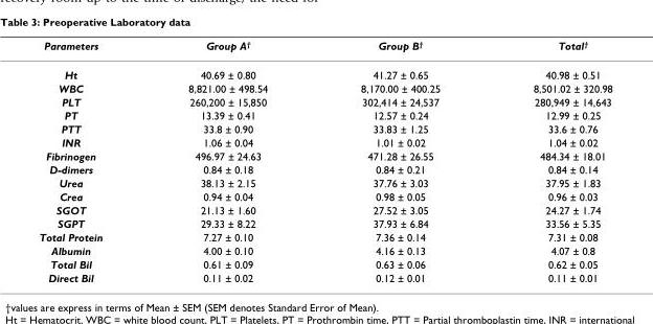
<table><thead><tr><td>Parameters</td><td>Group A<sup>†</sup></td><td>Group B<sup>†</sup></td><td>Total<sup>†</sup></td></tr></thead><tbody><tr><td>Ht</td><td>40.69 ± 0.80</td><td>41.27 ± 0.65</td><td>40.98 ± 0.51</td></tr><tr><td>WBC</td><td>8,821.00 ± 498.54</td><td>8,170.00 ± 400.25</td><td>8,501.02 ± 320.98</td></tr><tr><td>PLT</td><td>260,200 ± 15,850</td><td>302,414 ± 24,537</td><td>280,949 ± 14,643</td></tr><tr><td>PT</td><td>13.39 ± 0.41</td><td>12.57 ± 0.24</td><td>12.99 ± 0.25</td></tr><tr><td>PTT</td><td>33.8 ± 0.90</td><td>33.83 ± 1.25</td><td>33.6 ± 0.76</td></tr><tr><td>INR</td><td>1.06 ± 0.04</td><td>1.01 ± 0.02</td><td>1.04 ± 0.02</td></tr><tr><td>Fibrinogen</td><td>496.97 ± 24.63</td><td>471.28 ± 26.55</td><td>484.34 ± 18.01</td></tr><tr><td>D-dimers</td><td>0.84 ± 0.18</td><td>0.84 ± 0.21</td><td>0.84 ± 0.14</td></tr><tr><td>Urea</td><td>38.13 ± 2.15</td><td>37.76 ± 3.03</td><td>37.95 ± 1.83</td></tr><tr><td>Crea</td><td>0.94 ± 0.04</td><td>0.98 ± 0.05</td><td>0.96 ± 0.03</td></tr><tr><td>SGOT</td><td>21.13 ± 1.60</td><td>27.52 ± 3.05</td><td>24.27 ± 1.74</td></tr><tr><td>SGPT</td><td>29.33 ± 8.22</td><td>37.93 ± 6.84</td><td>33.56 ± 5.35</td></tr><tr><td>Total Protein</td><td>7.27 ± 0.10</td><td>7.36 ± 0.14</td><td>7.31 ± 0.08</td></tr><tr><td>Albumin</td><td>4.00 ± 0.10</td><td>4.16 ± 0.13</td><td>4.07 ± 0.8</td></tr><tr><td>Total Bil</td><td>0.61 ± 0.09</td><td>0.63 ± 0.06</td><td>0.62 ± 0.05</td></tr><tr><td>Direct Bil</td><td>0.11 ± 0.02</td><td>0.12 ± 0.01</td><td>0.11 ± 0.01</td></tr></tbody></table>